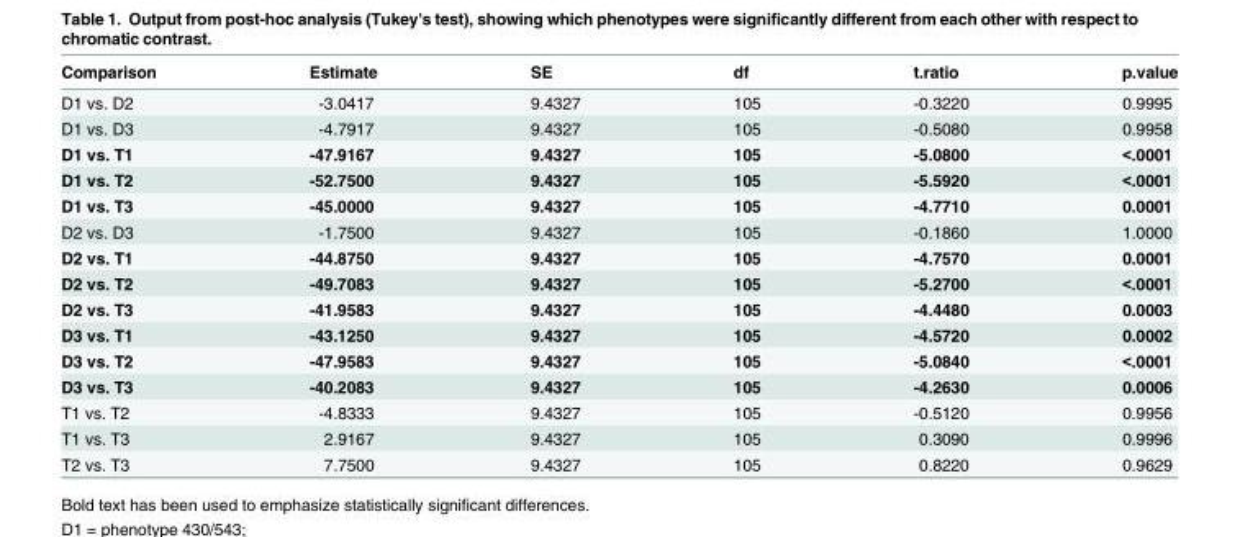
<table><thead><tr><td>Comparison</td><td>Estimate</td><td>SE</td><td>df</td><td>t.ratio</td><td>p.value</td></tr></thead><tbody><tr><td>D1 vs. D2</td><td>-3.0417</td><td>9.4327</td><td>105</td><td>-0.3220</td><td>0.9995</td></tr><tr><td>D1 vs. D3</td><td>-4.7917</td><td>9.4327</td><td>105</td><td>-0.5080</td><td>0.9958</td></tr><tr><td>D1 vs. T1</td><td>-47.9167</td><td>9.4327</td><td>105</td><td>-5.0800</td><td>&lt;.0001</td></tr><tr><td>D1 vs. T2</td><td>-52.7500</td><td>9.4327</td><td>105</td><td>-5.5920</td><td>&lt;.0001</td></tr><tr><td>D1 vs. T3</td><td>-45.0000</td><td>9.4327</td><td>105</td><td>-4.7710</td><td>0.0001</td></tr><tr><td>D2 vs. D3</td><td>-1.7500</td><td>9.4327</td><td>105</td><td>-0.1860</td><td>1.0000</td></tr><tr><td>D2 vs. T1</td><td>-44.8750</td><td>9.4327</td><td>105</td><td>-4.7570</td><td>0.0001</td></tr><tr><td>D2 vs. T2</td><td>-49.7083</td><td>9.4327</td><td>105</td><td>-5.2700</td><td>&lt;.0001</td></tr><tr><td>D2 vs. T3</td><td>-41.9583</td><td>9.4327</td><td>105</td><td>-4.4480</td><td>0.0003</td></tr><tr><td>D3 vs. T1</td><td>-43.1250</td><td>9.4327</td><td>105</td><td>-4.5720</td><td>0.0002</td></tr><tr><td>D3 vs. T2</td><td>-47.9583</td><td>9.4327</td><td>105</td><td>-5.0840</td><td>&lt;.0001</td></tr><tr><td>D3 vs. T3</td><td>-40.2083</td><td>9.4327</td><td>105</td><td>-4.2630</td><td>0.0006</td></tr><tr><td>T1 vs. T2</td><td>-4.8333</td><td>9.4327</td><td>105</td><td>-0.5120</td><td>0.9956</td></tr><tr><td>T1 vs. T3</td><td>2.9167</td><td>9.4327</td><td>105</td><td>0.3090</td><td>0.9996</td></tr><tr><td>T2 vs. T3</td><td>7.7500</td><td>9.4327</td><td>105</td><td>0.8220</td><td>0.9629</td></tr></tbody></table>